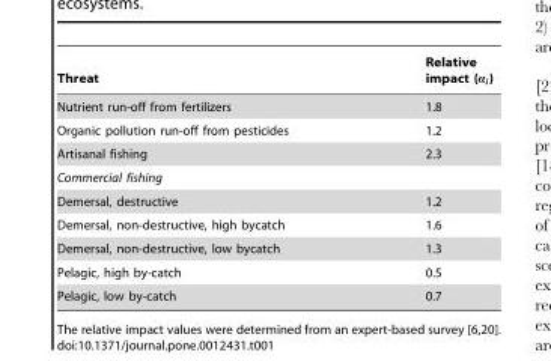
<table><thead><tr><td>Threat</td><td>Relative impact (ai)</td></tr></thead><tbody><tr><td>Nutrient run-off from fertilizers</td><td>1.8</td></tr><tr><td>Organic pollution run-off from pesticides</td><td>1.2</td></tr><tr><td>Artisanal fishing</td><td>2.3</td></tr><tr><td colspan="2">Commercial fishing</td></tr><tr><td>Demersal, destructive</td><td>1.2</td></tr><tr><td>Demersal, non-destructive, high bycatch</td><td>1.6</td></tr><tr><td>Demersal, non-destructive, low bycatch</td><td>1.3</td></tr><tr><td>Pelagic, high by-catch</td><td>0.5</td></tr><tr><td>Pelagic, low by-catch</td><td>0.7</td></tr></tbody></table>